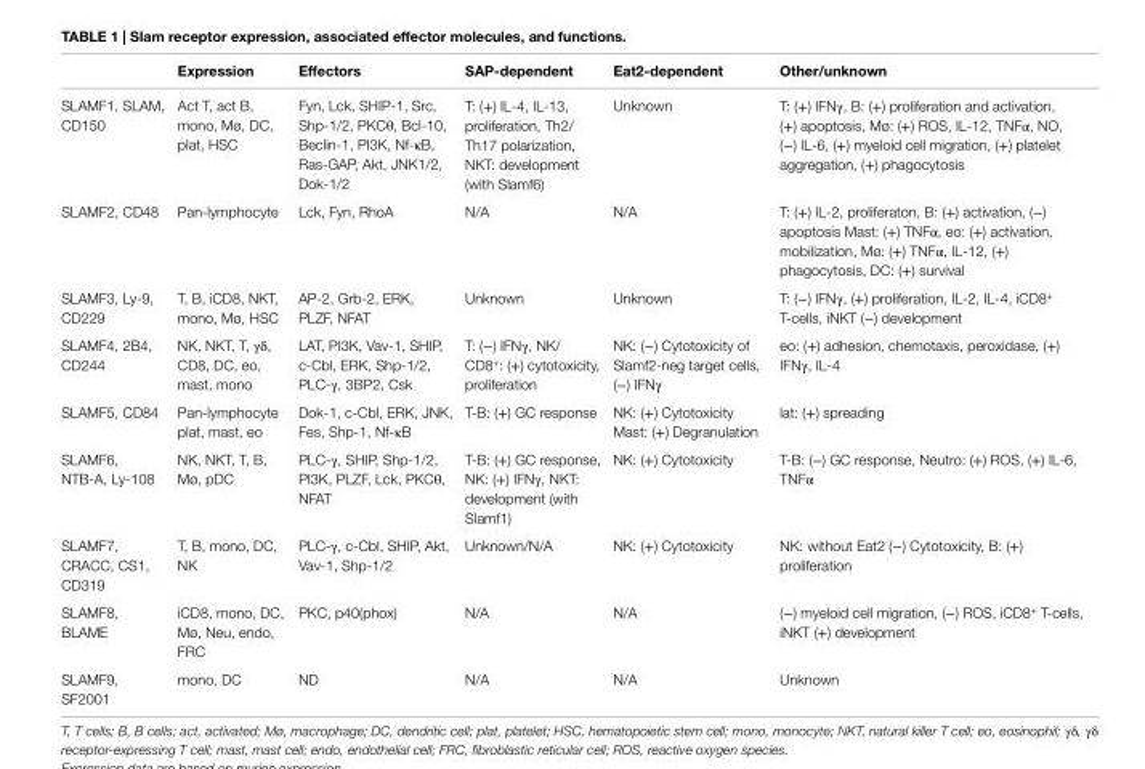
<table><thead><tr><td></td><td>expression</td><td>effectors</td><td>SAP-dependent</td><td>eat2-dependent</td><td>Other/unknown</td></tr></thead><tbody><tr><td>SLAMF1, SLAM, CD150</td><td>Act T, act B, mono, Mø, DC, plat, HSC</td><td>Fyn, Lck, SHIP-1, Src, Shp-1/2, PKCθ, Bcl-10, Beclin-1, PI3K, Nf-κB, Ras-GAP, Akt, JNK1/2, Dok-1/2</td><td>T: (+) IL-4, IL-13, proliferation, Th2/ Th17 polarization, NKT: development (with Slamf6)</td><td>Unknown</td><td>T: (+) IFNγ, B: (+) proliferation and activation, (+) apoptosis, Mø: (+) ROS, IL-12, TNFα, NO, (−) IL-6, (+) myeloid cell migration, (+) platelet aggregation, (+) phagocytosis</td></tr><tr><td>SLAMF2, CD48</td><td>Pan-lymphocyte</td><td>Lck, Fyn, RhoA</td><td>N/A</td><td>N/A</td><td>T: (+) IL-2, proliferaton, B: (+) activation, (−) apoptosis Mast: (+) TNFα, eo: (+) activation, mobilization, Mø: (+) TNFα, IL-12, (+) phagocytosis, DC: (+) survival</td></tr><tr><td>SLAMF3, Ly-9, CD229</td><td>T, B, iCD8, NKT, mono, Mø, HSC</td><td>AP-2, Grb-2, ERK, PLZF, NFAT</td><td>Unknown</td><td>Unknown</td><td>T: (−) IFNγ, (+) proliferation, IL-2, IL-4, iCD8<sup>+</sup> T-cells, iNKT (−) development</td></tr><tr><td>SLAMF4, 2B4, CD244</td><td>NK, NKT, T, γδ, CD8, DC, eo, mast, mono</td><td>LAT, PI3K, Vav-1, SHIP, c-Cbl, ERK, Shp-1/2, PLC-γ, 3BP2, Csk</td><td>T: (−) IFNγ, NK/ CD8<sup>+</sup>: (+) cytotoxicity, proliferation</td><td>NK: (−) Cytotoxicity of Slamf2-neg target cells, (−) IFNγ</td><td>eo: (+) adhesion, chemotaxis, peroxidase, (+) IFNγ, IL-4</td></tr><tr><td>SLAMF5, CD84</td><td>Pan-lymphocyte plat, mast, eo</td><td>Dok-1, c-Cbl, ERK, JNK, Fes, Shp-1, Nf-κB</td><td>T-B: (+) GC response</td><td>NK: (+) Cytotoxicity Mast: (+) Degranulation</td><td>lat: (+) spreading</td></tr><tr><td>SLAMF6, NTB-A, Ly-108</td><td>NK, NKT, T, B, Mø, pDC</td><td>PLC-γ, SHIP, Shp-1/2, PI3K, PLZF, Lck, PKCθ, NFAT</td><td>T-B: (+) GC response, NK: (+) IFNγ, NKT: development (with Slamf1)</td><td>NK: (+) Cytotoxicity</td><td>T-B: (−) GC response, Neutro: (+) ROS, (+) IL-6, TNFα</td></tr><tr><td>SLAMF7, CRACC, CS1, CD319</td><td>T, B, mono, DC, NK</td><td>PLC-γ, c-Cbl, SHIP, Akt, Vav-1, Shp-1/2</td><td>Unknown/N/A</td><td>NK: (+) Cytotoxicity</td><td>NK: without Eat2 (−) Cytotoxicity, B: (+) proliferation</td></tr><tr><td>SLAMF8, BLAME</td><td>iCD8, mono, DC, Mø, Neu, endo, FRC</td><td>PKC, p40(phox)</td><td>N/A</td><td>N/A</td><td>(−) myeloid cell migration, (−) ROS, iCD8<sup>+</sup> T-cells, iNKT (+) development</td></tr><tr><td>SLAMF9, SF2001</td><td>mono, DC</td><td>ND</td><td>N/A</td><td>N/A</td><td>Unknown</td></tr></tbody></table>